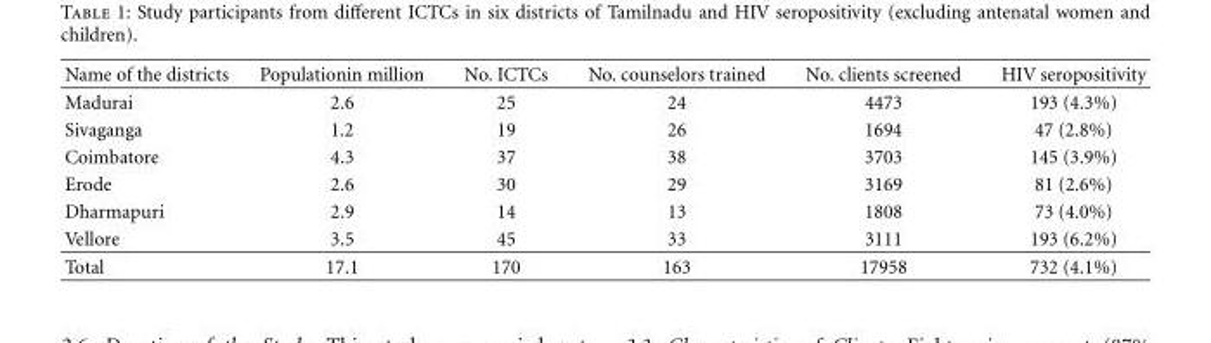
<table><thead><tr><td>Name of the districts</td><td>Populationin million</td><td>No. ICTCs</td><td>No. counselors trained</td><td>No. clients screened</td><td>HIV seropositivity</td></tr></thead><tbody><tr><td>Madurai</td><td>2.6</td><td>25</td><td>24</td><td>4473</td><td>193 (4.3%)</td></tr><tr><td>Sivaganga</td><td>1.2</td><td>19</td><td>26</td><td>1694</td><td>47 (2.8%)</td></tr><tr><td>Coimbatore</td><td>4.3</td><td>37</td><td>38</td><td>3703</td><td>145 (3.9%)</td></tr><tr><td>Erode</td><td>2.6</td><td>30</td><td>29</td><td>3169</td><td>81 (2.6%)</td></tr><tr><td>Dharmapuri</td><td>2.9</td><td>14</td><td>13</td><td>1808</td><td>73 (4.0%)</td></tr><tr><td>Vellore</td><td>3.5</td><td>45</td><td>33</td><td>3111</td><td>193 (6.2%)</td></tr><tr><td>Total</td><td>17.1</td><td>170</td><td>163</td><td>17958</td><td>732 (4.1%)</td></tr></tbody></table>